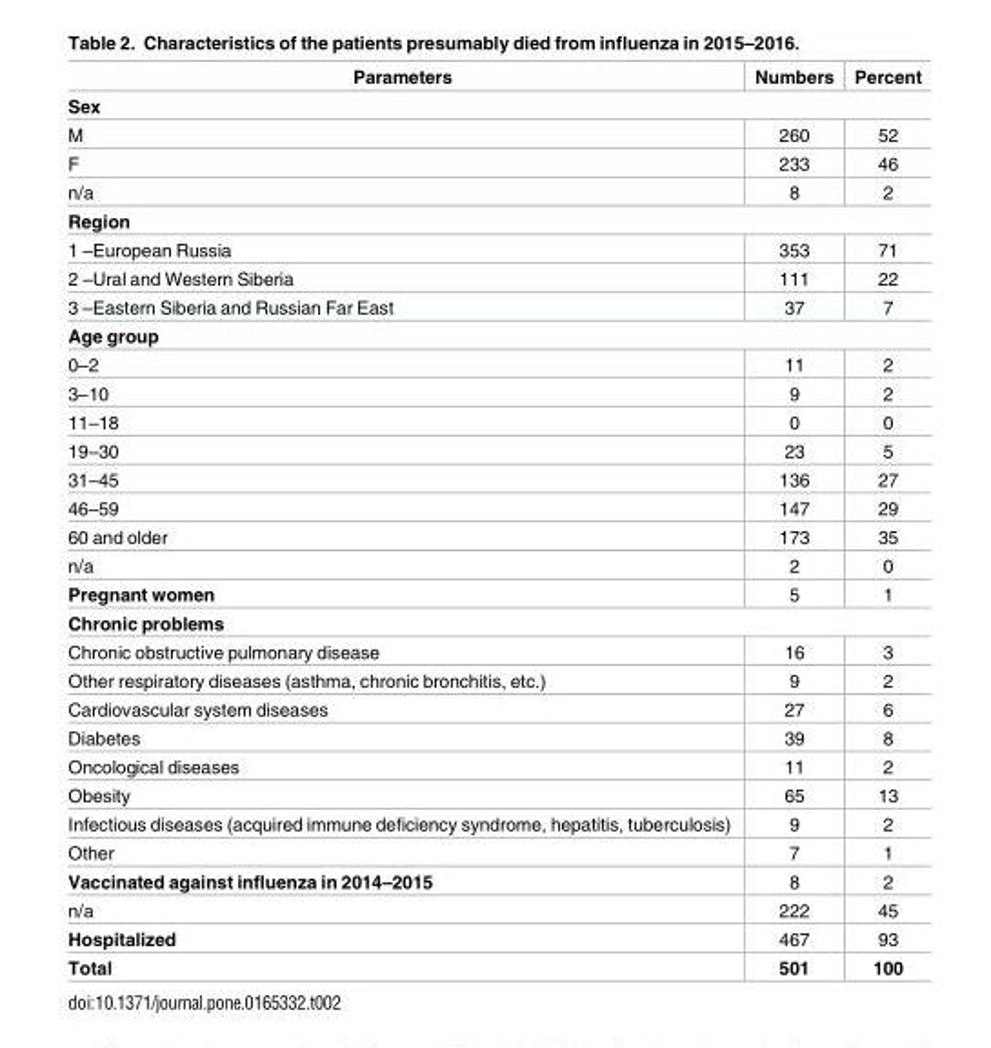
<table><thead><tr><td>Parameters</td><td>Numbers</td><td>Percent</td></tr></thead><tbody><tr><td colspan="3">Sex</td></tr><tr><td>M</td><td>260</td><td>52</td></tr><tr><td>F</td><td>233</td><td>46</td></tr><tr><td>n/a</td><td>8</td><td>2</td></tr><tr><td colspan="3">Region</td></tr><tr><td>1 –European Russia</td><td>353</td><td>71</td></tr><tr><td>2 –Ural and Western Siberia</td><td>111</td><td>22</td></tr><tr><td>3 –Eastern Siberia and Russian Far East</td><td>37</td><td>7</td></tr><tr><td colspan="3">Age group</td></tr><tr><td>0–2</td><td>11</td><td>2</td></tr><tr><td>3–10</td><td>9</td><td>2</td></tr><tr><td>11–18</td><td>0</td><td>0</td></tr><tr><td>19–30</td><td>23</td><td>5</td></tr><tr><td>31–45</td><td>136</td><td>27</td></tr><tr><td>46–59</td><td>147</td><td>29</td></tr><tr><td>60 and older</td><td>173</td><td>35</td></tr><tr><td>n/a</td><td>2</td><td>0</td></tr><tr><td>Pregnant women</td><td>5</td><td>1</td></tr><tr><td colspan="3">Chronic problems</td></tr><tr><td>Chronic obstructive pulmonary disease</td><td>16</td><td>3</td></tr><tr><td>Other respiratory diseases (asthma, chronic bronchitis, etc.)</td><td>9</td><td>2</td></tr><tr><td>Cardiovascular system diseases</td><td>27</td><td>6</td></tr><tr><td>Diabetes</td><td>39</td><td>8</td></tr><tr><td>Oncological diseases</td><td>11</td><td>2</td></tr><tr><td>Obesity</td><td>65</td><td>13</td></tr><tr><td>Infectious diseases (acquired immune deficiency syndrome, hepatitis, tuberculosis)</td><td>9</td><td>2</td></tr><tr><td>Other</td><td>7</td><td>1</td></tr><tr><td>Vaccinated against influenza in 2014–2015</td><td>8</td><td>2</td></tr><tr><td>n/a</td><td>222</td><td>45</td></tr><tr><td>Hospitalized</td><td>467</td><td>93</td></tr><tr><td>Total</td><td>501</td><td>100</td></tr></tbody></table>